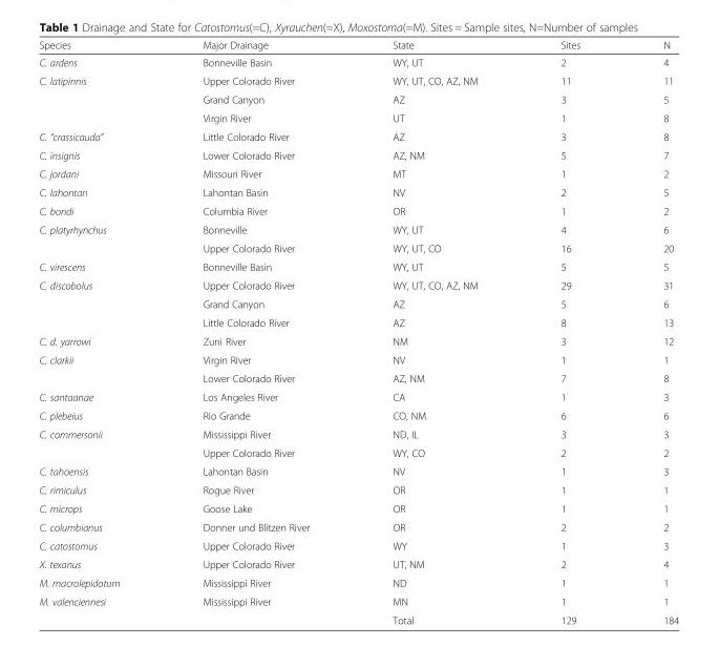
<table><thead><tr><td>Species</td><td>Major Drainage</td><td>State</td><td>Sites</td><td>N</td></tr></thead><tbody><tr><td>C. ardens</td><td>Bonneville Basin</td><td>WY, UT</td><td>2</td><td>4</td></tr><tr><td rowspan="3">C. latipinnis</td><td>Upper Colorado River</td><td>WY, UT, CO, AZ, NM</td><td>11</td><td>11</td></tr><tr><td>Grand Canyon</td><td>AZ</td><td>3</td><td>5</td></tr><tr><td>Virgin River</td><td>UT</td><td>1</td><td>8</td></tr><tr><td>C. “crassicauda”</td><td>Little Colorado River</td><td>AZ</td><td>3</td><td>8</td></tr><tr><td>C. insignis</td><td>Lower Colorado River</td><td>AZ, NM</td><td>5</td><td>7</td></tr><tr><td>C. jordani</td><td>Missouri River</td><td>MT</td><td>1</td><td>2</td></tr><tr><td>C. lahontan</td><td>Lahontan Basin</td><td>NV</td><td>2</td><td>5</td></tr><tr><td>C. bondi</td><td>Columbia River</td><td>OR</td><td>1</td><td>2</td></tr><tr><td rowspan="2">C. platyrhynchus</td><td>Bonneville</td><td>WY, UT</td><td>4</td><td>6</td></tr><tr><td>Upper Colorado River</td><td>WY, UT, CO</td><td>16</td><td>20</td></tr><tr><td>C. virescens</td><td>Bonneville Basin</td><td>WY, UT</td><td>5</td><td>5</td></tr><tr><td rowspan="3">C. discobolus</td><td>Upper Colorado River</td><td>WY, UT, CO, AZ, NM</td><td>29</td><td>31</td></tr><tr><td>Grand Canyon</td><td>AZ</td><td>5</td><td>6</td></tr><tr><td>Little Colorado River</td><td>AZ</td><td>8</td><td>13</td></tr><tr><td>C. d. yarrowi</td><td>Zuni River</td><td>NM</td><td>3</td><td>12</td></tr><tr><td rowspan="2">C. clarkii</td><td>Virgin River</td><td>NV</td><td>1</td><td>1</td></tr><tr><td>Lower Colorado River</td><td>AZ, NM</td><td>7</td><td>8</td></tr><tr><td>C. santaanae</td><td>Los Angeles River</td><td>CA</td><td>1</td><td>3</td></tr><tr><td>C. plebeius</td><td>Rio Grande</td><td>CO, NM</td><td>6</td><td>6</td></tr><tr><td rowspan="2">C. commersonii</td><td>Mississippi River</td><td>ND, IL</td><td>3</td><td>3</td></tr><tr><td>Upper Colorado River</td><td>WY, CO</td><td>2</td><td>2</td></tr><tr><td>C. tahoensis</td><td>Lahontan Basin</td><td>NV</td><td>1</td><td>3</td></tr><tr><td>C. rimiculus</td><td>Rogue River</td><td>OR</td><td>1</td><td>1</td></tr><tr><td>C. microps</td><td>Goose Lake</td><td>OR</td><td>1</td><td>1</td></tr><tr><td>C. columbianus</td><td>Donner und Blitzen River</td><td>OR</td><td>2</td><td>2</td></tr><tr><td>C. catostomus</td><td>Upper Colorado River</td><td>WY</td><td>1</td><td>3</td></tr><tr><td>X. texanus</td><td>Upper Colorado River</td><td>UT, NM</td><td>2</td><td>4</td></tr><tr><td>M. macrolepidotum</td><td>Mississippi River</td><td>ND</td><td>1</td><td>1</td></tr><tr><td rowspan="2">M. valenciennesi</td><td>Mississippi River</td><td>MN</td><td>1</td><td>1</td></tr><tr><td></td><td>Total</td><td>129</td><td>184</td></tr></tbody></table>